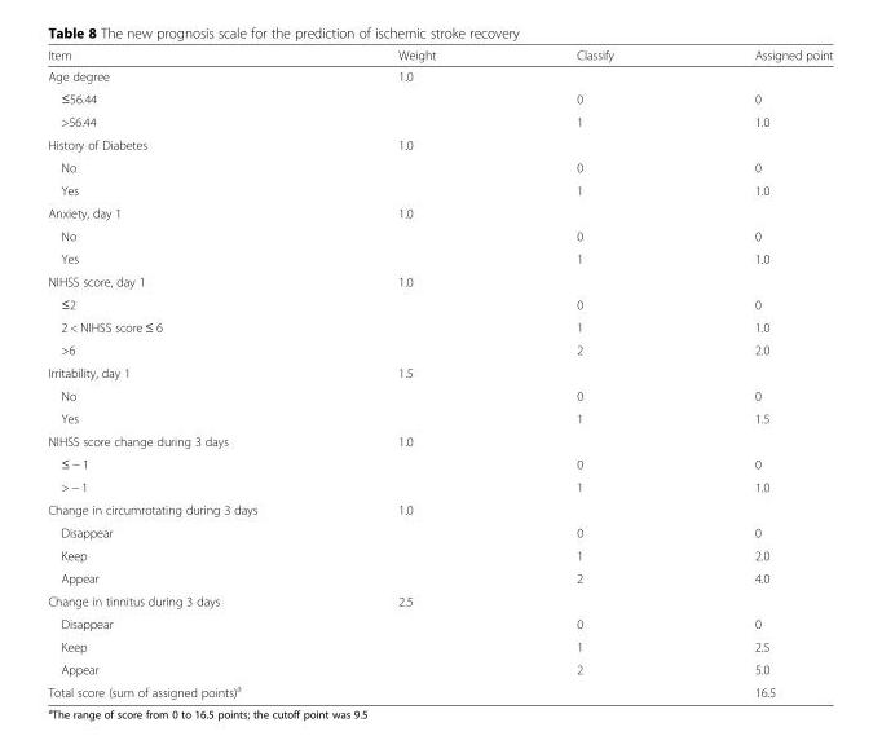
<table><thead><tr><td>Item</td><td>Weight</td><td>Classify</td><td>Assigned point</td></tr></thead><tbody><tr><td>Age degree</td><td>1.0</td><td></td><td></td></tr><tr><td>≤56.44</td><td></td><td>0</td><td>0</td></tr><tr><td>&gt;56.44</td><td></td><td>1</td><td>1.0</td></tr><tr><td>History of Diabetes</td><td>1.0</td><td></td><td></td></tr><tr><td>No</td><td></td><td>0</td><td>0</td></tr><tr><td>Yes</td><td></td><td>1</td><td>1.0</td></tr><tr><td>Anxiety, day 1</td><td>1.0</td><td></td><td></td></tr><tr><td>No</td><td></td><td>0</td><td>0</td></tr><tr><td>Yes</td><td></td><td>1</td><td>1.0</td></tr><tr><td>NIHSS score, day 1</td><td>1.0</td><td></td><td></td></tr><tr><td>≤2</td><td></td><td>0</td><td>0</td></tr><tr><td>2 &lt; NIHSS score ≤ 6</td><td></td><td>1</td><td>1.0</td></tr><tr><td>&gt;6</td><td></td><td>2</td><td>2.0</td></tr><tr><td>Irritability, day 1</td><td>1.5</td><td></td><td></td></tr><tr><td>No</td><td></td><td>0</td><td>0</td></tr><tr><td>Yes</td><td></td><td>1</td><td>1.5</td></tr><tr><td>NIHSS score change during 3 days</td><td>1.0</td><td></td><td></td></tr><tr><td>≤ − 1</td><td></td><td>0</td><td>0</td></tr><tr><td>&gt; − 1</td><td></td><td>1</td><td>1.0</td></tr><tr><td>Change in circumrotating during 3 days</td><td>1.0</td><td></td><td></td></tr><tr><td>Disappear</td><td></td><td>0</td><td>0</td></tr><tr><td>Keep</td><td></td><td>1</td><td>2.0</td></tr><tr><td>Appear</td><td></td><td>2</td><td>4.0</td></tr><tr><td>Change in tinnitus during 3 days</td><td>2.5</td><td></td><td></td></tr><tr><td>Disappear</td><td></td><td>0</td><td>0</td></tr><tr><td>Keep</td><td></td><td>1</td><td>2.5</td></tr><tr><td>Appear</td><td></td><td>2</td><td>5.0</td></tr><tr><td>Total score (sum of assigned points)<sup>a</sup></td><td></td><td></td><td>16.5</td></tr></tbody></table>